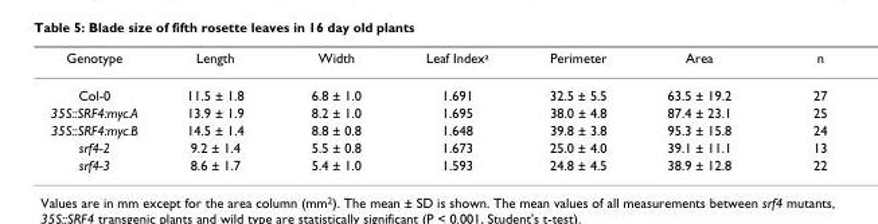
<table><thead><tr><td>Genotype</td><td>Length</td><td>Width</td><td>Leaf Index<sup>a</sup></td><td>Perimeter</td><td>Area</td><td>n</td></tr></thead><tbody><tr><td>Col-0</td><td>11.5 ± 1.8</td><td>6.8 ± 1.0</td><td>1.691</td><td>32.5 ± 5.5</td><td>63.5 ± 19.2</td><td>27</td></tr><tr><td>35S::SRF4:myc.A</td><td>13.9 ± 1.9</td><td>8.2 ± 1.0</td><td>1.695</td><td>38.0 ± 4.8</td><td>87.4 ± 23.1</td><td>25</td></tr><tr><td>35S::SRF4:myc.B</td><td>14.5 ± 1.4</td><td>8.8 ± 0.8</td><td>1.648</td><td>39.8 ± 3.8</td><td>95.3 ± 15.8</td><td>24</td></tr><tr><td>srf4-2</td><td>9.2 ± 1.4</td><td>5.5 ± 0.8</td><td>1.673</td><td>25.0 ± 4.0</td><td>39.1 ± 11.1</td><td>13</td></tr><tr><td>srf4-3</td><td>8.6 ± 1.7</td><td>5.4 ± 1.0</td><td>1.593</td><td>24.8 ± 4.5</td><td>38.9 ± 12.8</td><td>22</td></tr></tbody></table>